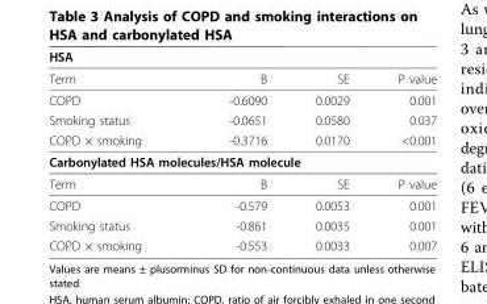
<table><thead><tr><td colspan="4">HSA</td></tr><tr><td>Term</td><td>Β</td><td>SE</td><td>P value</td></tr></thead><tbody><tr><td>COPD</td><td>-0.6090</td><td>0.0029</td><td>0.001</td></tr><tr><td>Smoking status</td><td>-0.0651</td><td>0.0580</td><td>0.037</td></tr><tr><td>COPD × smoking</td><td>-0.3716</td><td>0.0170</td><td>&lt;0.001</td></tr><tr><td colspan="4">Carbonylated HSA molecules/HSA molecule</td></tr><tr><td>Term</td><td>Β</td><td>SE</td><td>P value</td></tr><tr><td>COPD</td><td>-0.579</td><td>0.0053</td><td>0.001</td></tr><tr><td>Smoking status</td><td>-0.861</td><td>0.0035</td><td>0.001</td></tr><tr><td>COPD × smoking</td><td>-0.553</td><td>0.0033</td><td>0.007</td></tr></tbody></table>